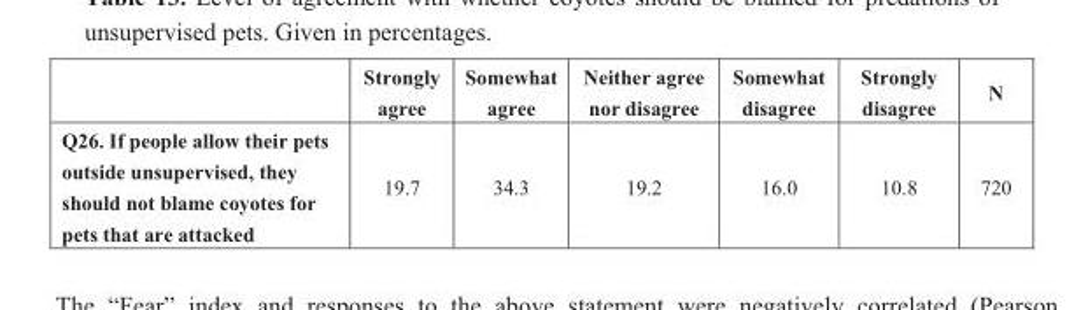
<table><thead><tr><td></td><td>Strongly agree</td><td>Somewhat agree</td><td>Neither agree nor disagree</td><td>Somewhat disagree</td><td>Strongly disagree</td><td>N</td></tr></thead><tbody><tr><td>Q26. If people allow their pets outside unsupervised, they should not blame coyotes for pets that are attacked</td><td>19.7</td><td>34.3</td><td>19.2</td><td>16.0</td><td>10.8</td><td>720</td></tr></tbody></table>